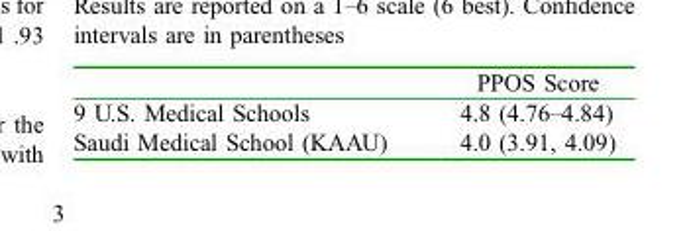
<table><thead><tr><td></td><td>PPOS Score</td></tr></thead><tbody><tr><td>9 U.S. Medical Schools</td><td>4.8 (4.76–4.84)</td></tr><tr><td>Saudi Medical School (KAAU)</td><td>4.0 (3.91, 4.09)</td></tr></tbody></table>